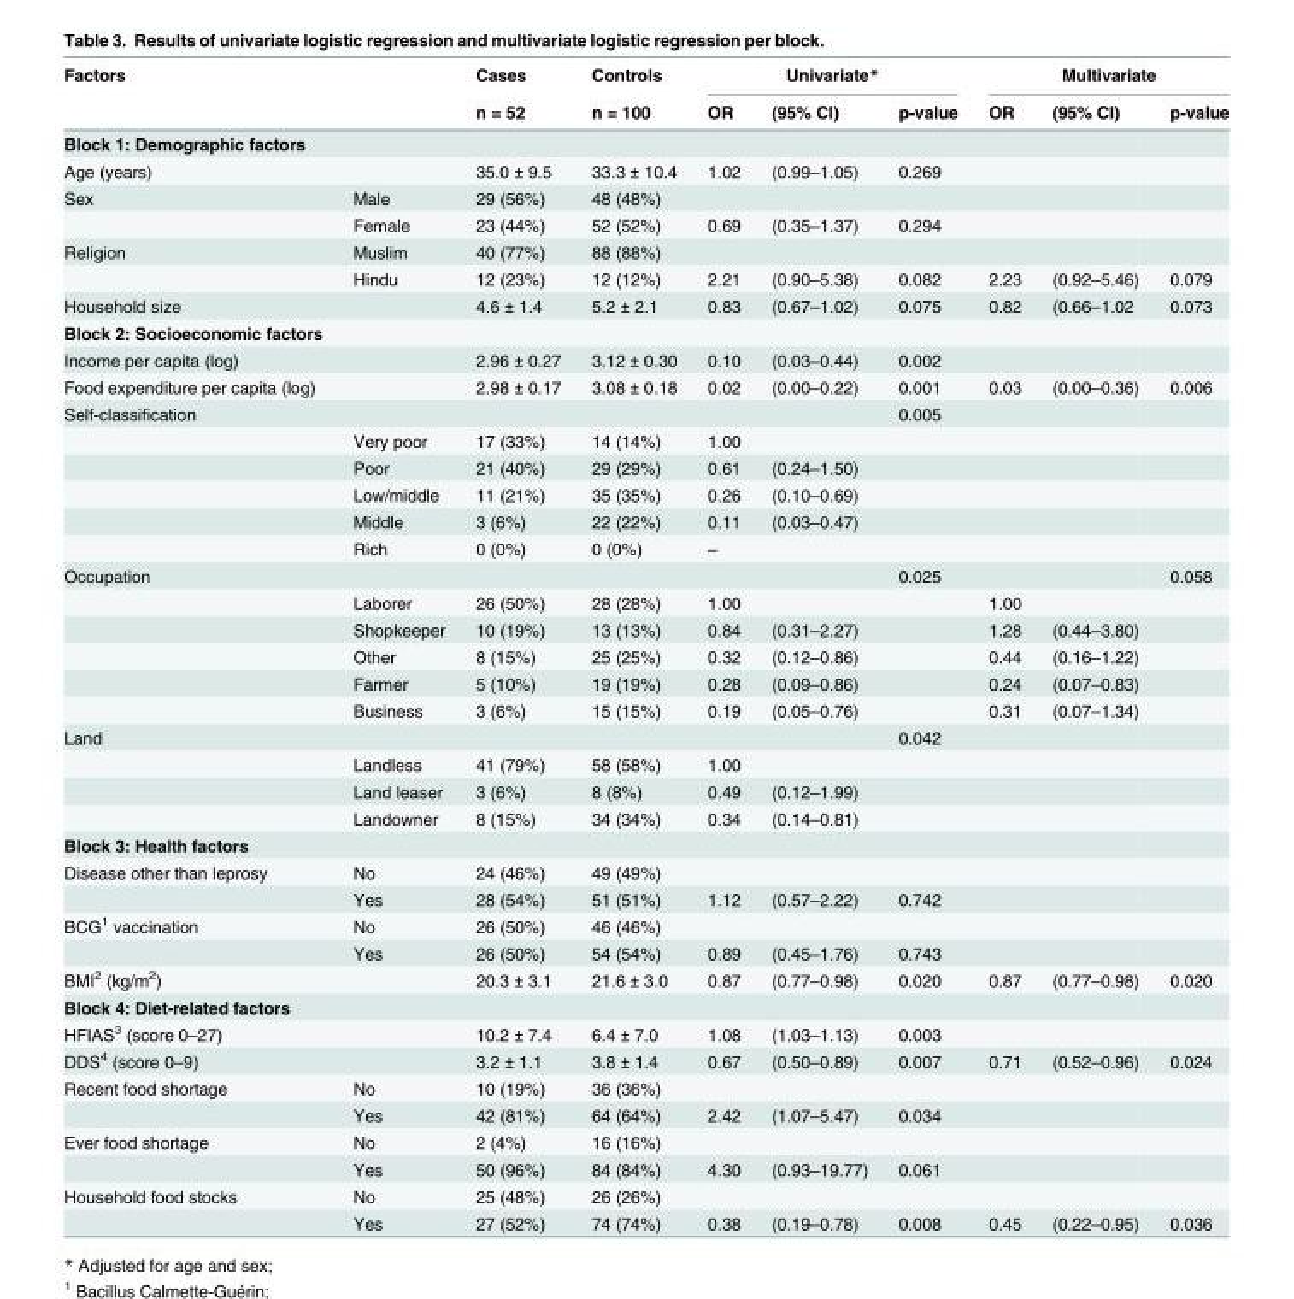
<table><thead><tr><td rowspan="2">Factors</td><td rowspan="2"></td><td rowspan="2">Cases n = 52</td><td rowspan="2">Controls n = 100</td><td colspan="3">Univariate*</td><td colspan="3">Multivariate</td></tr><tr><td>OR</td><td>(95% CI)</td><td>p-value</td><td>OR</td><td>(95% CI)</td><td>p-value</td></tr></thead><tbody><tr><td colspan="10">Block 1: Demographic factors</td></tr><tr><td>Age (years)</td><td></td><td>35.0 ± 9.5</td><td>33.3 ± 10.4</td><td>1.02</td><td>(0.99–1.05)</td><td>0.269</td><td></td><td></td><td></td></tr><tr><td rowspan="2">Sex</td><td>Male</td><td>29 (56%)</td><td>48 (48%)</td><td></td><td></td><td></td><td></td><td></td><td></td></tr><tr><td>Female</td><td>23 (44%)</td><td>52 (52%)</td><td>0.69</td><td>(0.35–1.37)</td><td>0.294</td><td></td><td></td><td></td></tr><tr><td rowspan="2">Religion</td><td>Muslim</td><td>40 (77%)</td><td>88 (88%)</td><td></td><td></td><td></td><td></td><td></td><td></td></tr><tr><td>Hindu</td><td>12 (23%)</td><td>12 (12%)</td><td>2.21</td><td>(0.90–5.38)</td><td>0.082</td><td>2.23</td><td>(0.92–5.46)</td><td>0.079</td></tr><tr><td>Household size</td><td></td><td>4.6 ± 1.4</td><td>5.2 ± 2.1</td><td>0.83</td><td>(0.67–1.02)</td><td>0.075</td><td>0.82</td><td>(0.66–1.02</td><td>0.073</td></tr><tr><td colspan="10">Block 2: Socioeconomic factors</td></tr><tr><td>Income per capita (log)</td><td></td><td>2.96 ± 0.27</td><td>3.12 ± 0.30</td><td>0.10</td><td>(0.03–0.44)</td><td>0.002</td><td></td><td></td><td></td></tr><tr><td>Food expenditure per capita (log)</td><td></td><td>2.98 ± 0.17</td><td>3.08 ± 0.18</td><td>0.02</td><td>(0.00–0.22)</td><td>0.001</td><td>0.03</td><td>(0.00–0.36)</td><td>0.006</td></tr><tr><td rowspan="6">Self-classification</td><td></td><td></td><td></td><td></td><td></td><td>0.005</td><td></td><td></td><td></td></tr><tr><td>Very poor</td><td>17 (33%)</td><td>14 (14%)</td><td>1.00</td><td></td><td></td><td></td><td></td><td></td></tr><tr><td>Poor</td><td>21 (40%)</td><td>29 (29%)</td><td>0.61</td><td>(0.24–1.50)</td><td></td><td></td><td></td><td></td></tr><tr><td>Low/middle</td><td>11 (21%)</td><td>35 (35%)</td><td>0.26</td><td>(0.10–0.69)</td><td></td><td></td><td></td><td></td></tr><tr><td>Middle</td><td>3 (6%)</td><td>22 (22%)</td><td>0.11</td><td>(0.03–0.47)</td><td></td><td></td><td></td><td></td></tr><tr><td>Rich</td><td>0 (0%)</td><td>0 (0%)</td><td>–</td><td></td><td></td><td></td><td></td><td></td></tr><tr><td rowspan="6">Occupation</td><td></td><td></td><td></td><td></td><td></td><td>0.025</td><td></td><td></td><td>0.058</td></tr><tr><td>Laborer</td><td>26 (50%)</td><td>28 (28%)</td><td>1.00</td><td></td><td></td><td>1.00</td><td></td><td></td></tr><tr><td>Shopkeeper</td><td>10 (19%)</td><td>13 (13%)</td><td>0.84</td><td>(0.31–2.27)</td><td></td><td>1.28</td><td>(0.44–3.80)</td><td></td></tr><tr><td>Other</td><td>8 (15%)</td><td>25 (25%)</td><td>0.32</td><td>(0.12–0.86)</td><td></td><td>0.44</td><td>(0.16–1.22)</td><td></td></tr><tr><td>Farmer</td><td>5 (10%)</td><td>19 (19%)</td><td>0.28</td><td>(0.09–0.86)</td><td></td><td>0.24</td><td>(0.07–0.83)</td><td></td></tr><tr><td>Business</td><td>3 (6%)</td><td>15 (15%)</td><td>0.19</td><td>(0.05–0.76)</td><td></td><td>0.31</td><td>(0.07–1.34)</td><td></td></tr><tr><td rowspan="4">Land</td><td></td><td></td><td></td><td></td><td></td><td>0.042</td><td></td><td></td><td></td></tr><tr><td>Landless</td><td>41 (79%)</td><td>58 (58%)</td><td>1.00</td><td></td><td></td><td></td><td></td><td></td></tr><tr><td>Land leaser</td><td>3 (6%)</td><td>8 (8%)</td><td>0.49</td><td>(0.12–1.99)</td><td></td><td></td><td></td><td></td></tr><tr><td>Landowner</td><td>8 (15%)</td><td>34 (34%)</td><td>0.34</td><td>(0.14–0.81)</td><td></td><td></td><td></td><td></td></tr><tr><td colspan="10">Block 3: Health factors</td></tr><tr><td rowspan="2">Disease other than leprosy</td><td>No</td><td>24 (46%)</td><td>49 (49%)</td><td></td><td></td><td></td><td></td><td></td><td></td></tr><tr><td>Yes</td><td>28 (54%)</td><td>51 (51%)</td><td>1.12</td><td>(0.57–2.22)</td><td>0.742</td><td></td><td></td><td></td></tr><tr><td rowspan="2">BCG<sup>1</sup> vaccination</td><td>No</td><td>26 (50%)</td><td>46 (46%)</td><td></td><td></td><td></td><td></td><td></td><td></td></tr><tr><td>Yes</td><td>26 (50%)</td><td>54 (54%)</td><td>0.89</td><td>(0.45–1.76)</td><td>0.743</td><td></td><td></td><td></td></tr><tr><td>BMI<sup>2</sup> (kg/m<sup>2</sup>)</td><td></td><td>20.3 ± 3.1</td><td>21.6 ± 3.0</td><td>0.87</td><td>(0.77–0.98)</td><td>0.020</td><td>0.87</td><td>(0.77–0.98)</td><td>0.020</td></tr><tr><td colspan="10">Block 4: Diet-related factors</td></tr><tr><td>HFIAS<sup>3</sup> (score 0–27)</td><td></td><td>10.2 ± 7.4</td><td>6.4 ± 7.0</td><td>1.08</td><td>(1.03–1.13)</td><td>0.003</td><td></td><td></td><td></td></tr><tr><td>DDS<sup>4</sup> (score 0–9)</td><td></td><td>3.2 ± 1.1</td><td>3.8 ± 1.4</td><td>0.67</td><td>(0.50–0.89)</td><td>0.007</td><td>0.71</td><td>(0.52–0.96)</td><td>0.024</td></tr><tr><td rowspan="2">Recent food shortage</td><td>No</td><td>10 (19%)</td><td>36 (36%)</td><td></td><td></td><td></td><td></td><td></td><td></td></tr><tr><td>Yes</td><td>42 (81%)</td><td>64 (64%)</td><td>2.42</td><td>(1.07–5.47)</td><td>0.034</td><td></td><td></td><td></td></tr><tr><td rowspan="2">Ever food shortage</td><td>No</td><td>2 (4%)</td><td>16 (16%)</td><td></td><td></td><td></td><td></td><td></td><td></td></tr><tr><td>Yes</td><td>50 (96%)</td><td>84 (84%)</td><td>4.30</td><td>(0.93–19.77)</td><td>0.061</td><td></td><td></td><td></td></tr><tr><td rowspan="2">Household food stocks</td><td>No</td><td>25 (48%)</td><td>26 (26%)</td><td></td><td></td><td></td><td></td><td></td><td></td></tr><tr><td>Yes</td><td>27 (52%)</td><td>74 (74%)</td><td>0.38</td><td>(0.19–0.78)</td><td>0.008</td><td>0.45</td><td>(0.22–0.95)</td><td>0.036</td></tr></tbody></table>